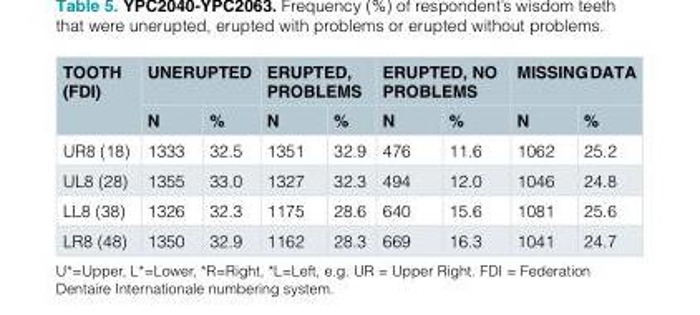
<table><thead><tr><td rowspan="2">TOOTH (FDI)</td><td colspan="2">UNERUPTED</td><td colspan="2">ERUPTED, PROBLEMS</td><td colspan="2">ERUPTED, NO PROBLEMS</td><td colspan="2">MISSING DATA</td></tr><tr><td>N</td><td>%</td><td>N</td><td>%</td><td>N</td><td>%</td><td>N</td><td>%</td></tr></thead><tbody><tr><td>UR8 (18)</td><td>1333</td><td>32.5</td><td>1351</td><td>32.9</td><td>476</td><td>11.6</td><td>1062</td><td>25.2</td></tr><tr><td>UL8 (28)</td><td>1355</td><td>33.0</td><td>1327</td><td>32.3</td><td>494</td><td>12.0</td><td>1046</td><td>24.8</td></tr><tr><td>LL8 (38)</td><td>1326</td><td>32.3</td><td>1175</td><td>28.6</td><td>640</td><td>15.6</td><td>1081</td><td>25.6</td></tr><tr><td>LR8 (48)</td><td>1350</td><td>32.9</td><td>1162</td><td>28.3</td><td>669</td><td>16.3</td><td>1041</td><td>24.7</td></tr></tbody></table>